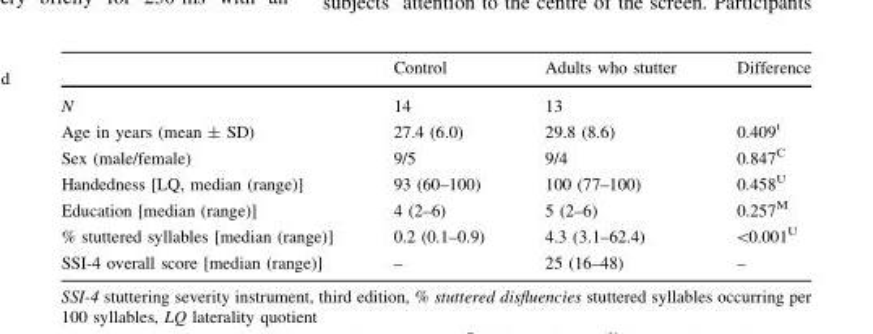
<table><thead><tr><td></td><td>Control</td><td>Adults who stutter</td><td>Difference</td></tr></thead><tbody><tr><td>N</td><td>14</td><td>13</td><td></td></tr><tr><td>Age in years (mean ± SD)</td><td>27.4 (6.0)</td><td>29.8 (8.6)</td><td>0.409<sup>t</sup></td></tr><tr><td>Sex (male/female)</td><td>9/5</td><td>9/4</td><td>0.847<sup>C</sup></td></tr><tr><td>Handedness [LQ, median (range)]</td><td>93 (60–100)</td><td>100 (77–100)</td><td>0.458<sup>U</sup></td></tr><tr><td>Education [median (range)]</td><td>4 (2–6)</td><td>5 (2–6)</td><td>0.257<sup>M</sup></td></tr><tr><td>% stuttered syllables [median (range)]</td><td>0.2 (0.1–0.9)</td><td>4.3 (3.1–62.4)</td><td>&lt;0.001<sup>U</sup></td></tr><tr><td>SSI-4 overall score [median (range)]</td><td>–</td><td>25 (16–48)</td><td>–</td></tr></tbody></table>